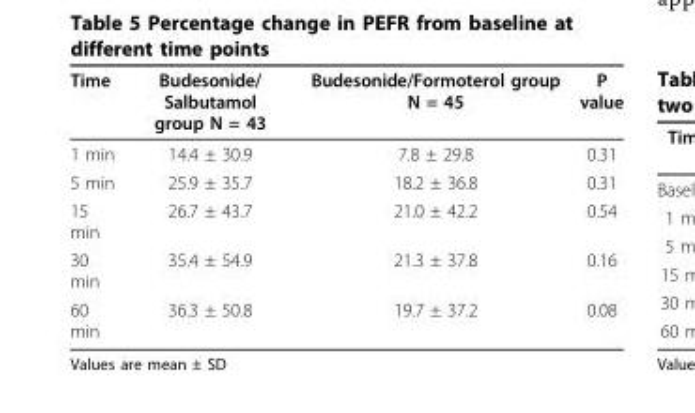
<table><thead><tr><td>Time</td><td>Budesonide/ Salbutamol group N = 43</td><td>Budesonide/Formoterol group N = 45</td><td>P value</td></tr></thead><tbody><tr><td>1 min</td><td>14.4 ± 30.9</td><td>7.8 ± 29.8</td><td>0.31</td></tr><tr><td>5 min</td><td>25.9 ± 35.7</td><td>18.2 ± 36.8</td><td>0.31</td></tr><tr><td>15 min</td><td>26.7 ± 43.7</td><td>21.0 ± 42.2</td><td>0.54</td></tr><tr><td>30 min</td><td>35.4 ± 54.9</td><td>21.3 ± 37.8</td><td>0.16</td></tr><tr><td>60 min</td><td>36.3 ± 50.8</td><td>19.7 ± 37.2</td><td>0.08</td></tr></tbody></table>